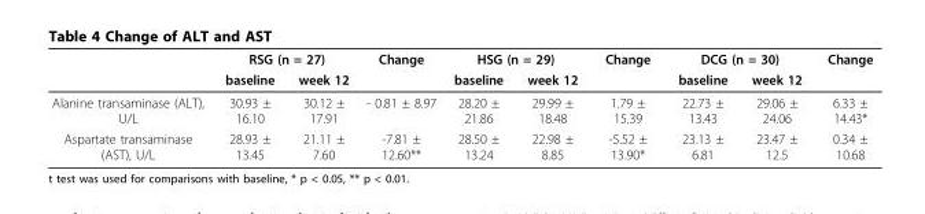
<table><thead><tr><td rowspan="2"></td><td colspan="2">RSG (n = 27)</td><td rowspan="2">Change</td><td colspan="2">HSG (n = 29)</td><td rowspan="2">Change</td><td colspan="2">DCG (n = 30)</td><td rowspan="2">Change</td></tr><tr><td>baseline</td><td>week 12</td><td>baseline</td><td>week 12</td><td>baseline</td><td>week 12</td></tr></thead><tbody><tr><td>Alanine transaminase (ALT), U/L</td><td>30.93 ± 16.10</td><td>30.12 ± 17.91</td><td>- 0.81 ± 8.97</td><td>28.20 ± 21.86</td><td>29.99 ± 18.48</td><td>1.79 ± 15.39</td><td>22.73 ± 13.43</td><td>29.06 ± 24.06</td><td>6.33 ± 14.43*</td></tr><tr><td>Aspartate transaminase (AST), U/L</td><td>28.93 ± 13.45</td><td>21.11 ± 7.60</td><td>-7.81 ± 12.60**</td><td>28.50 ± 13.24</td><td>22.98 ± 8.85</td><td>-5.52 ± 13.90*</td><td>23.13 ± 6.81</td><td>23.47 ± 12.5</td><td>0.34 ± 10.68</td></tr></tbody></table>